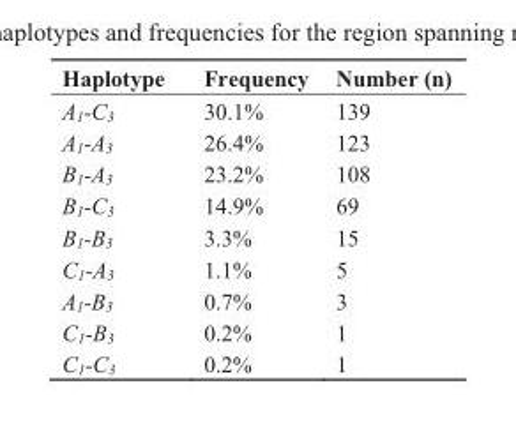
<table><thead><tr><td>Haplotype</td><td>Frequency</td><td>Number (n)</td></tr></thead><tbody><tr><td>A<sub>1</sub>-C<sub>3</sub></td><td>30.1%</td><td>139</td></tr><tr><td>A<sub>1</sub>-A<sub>3</sub></td><td>26.4%</td><td>123</td></tr><tr><td>B<sub>1</sub>-A<sub>3</sub></td><td>23.2%</td><td>108</td></tr><tr><td>B<sub>1</sub>-C<sub>3</sub></td><td>14.9%</td><td>69</td></tr><tr><td>B<sub>1</sub>-B<sub>3</sub></td><td>3.3%</td><td>15</td></tr><tr><td>C<sub>1</sub>-A<sub>3</sub></td><td>1.1%</td><td>5</td></tr><tr><td>A<sub>1</sub>-B<sub>3</sub></td><td>0.7%</td><td>3</td></tr><tr><td>C<sub>1</sub>-B<sub>3</sub></td><td>0.2%</td><td>1</td></tr><tr><td>C<sub>1</sub>-C<sub>3</sub></td><td>0.2%</td><td>1</td></tr></tbody></table>